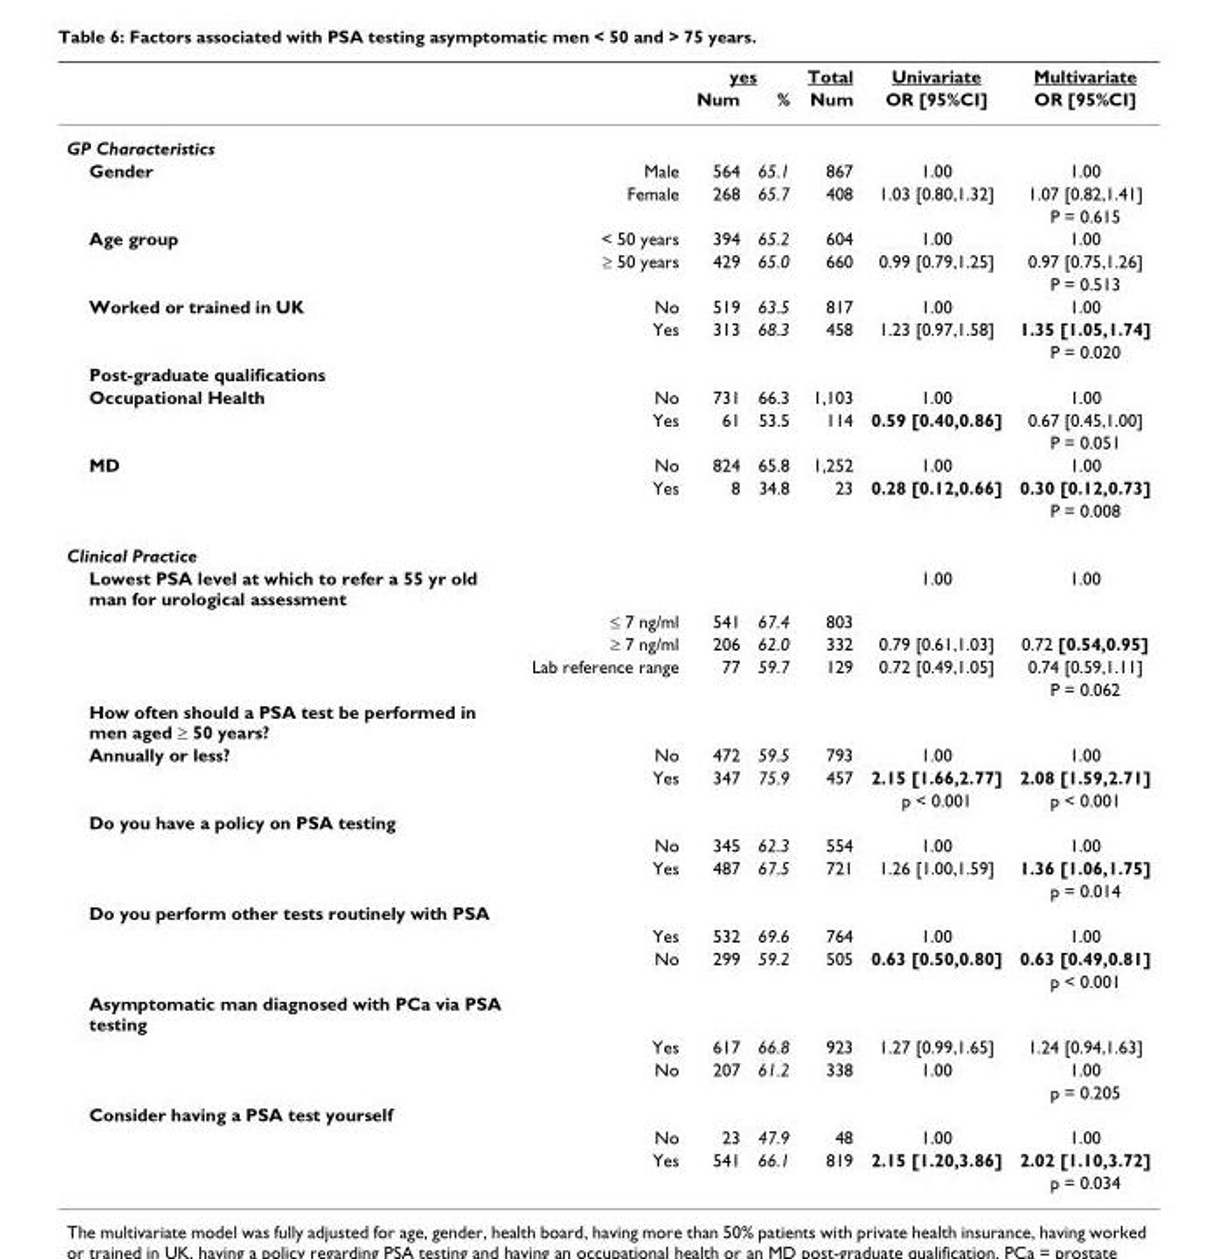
<table><thead><tr><td rowspan="2"></td><td rowspan="2"></td><td colspan="2">yes</td><td rowspan="2">Total Num</td><td rowspan="2">Univariate OR [95%CI]</td><td rowspan="2">Multivariate OR [95%CI]</td></tr><tr><td>Num</td><td>%</td></tr></thead><tbody><tr><td colspan="7">GP Characteristics</td></tr><tr><td rowspan="3">Gender</td><td>Male</td><td>564</td><td>65.1</td><td>867</td><td>1.00</td><td>1.00</td></tr><tr><td>Female</td><td>268</td><td>65.7</td><td>408</td><td>1.03 [0.80,1.32]</td><td>1.07 [0.82,1.41]</td></tr><tr><td></td><td></td><td></td><td></td><td></td><td>P = 0.615</td></tr><tr><td rowspan="3">Age group</td><td>&lt; 50 years</td><td>394</td><td>65.2</td><td>604</td><td>1.00</td><td>1.00</td></tr><tr><td>≥ 50 years</td><td>429</td><td>65.0</td><td>660</td><td>0.99 [0.79,1.25]</td><td>0.97 [0.75,1.26]</td></tr><tr><td></td><td></td><td></td><td></td><td></td><td>P = 0.513</td></tr><tr><td rowspan="3">Worked or trained in UK</td><td>No</td><td>519</td><td>63.5</td><td>817</td><td>1.00</td><td>1.00</td></tr><tr><td>Yes</td><td>313</td><td>68.3</td><td>458</td><td>1.23 [0.97,1.58]</td><td>1.35 [1.05,1.74]</td></tr><tr><td></td><td></td><td></td><td></td><td></td><td>P = 0.020</td></tr><tr><td colspan="7">Post-graduate qualifications</td></tr><tr><td rowspan="3">Occupational Health</td><td>No</td><td>731</td><td>66.3</td><td>1,103</td><td>1.00</td><td>1.00</td></tr><tr><td>Yes</td><td>61</td><td>53.5</td><td>114</td><td>0.59 [0.40,0.86]</td><td>0.67 [0.45,1.00]</td></tr><tr><td></td><td></td><td></td><td></td><td></td><td>P = 0.051</td></tr><tr><td rowspan="3">MD</td><td>No</td><td>824</td><td>65.8</td><td>1,252</td><td>1.00</td><td>1.00</td></tr><tr><td>Yes</td><td>8</td><td>34.8</td><td>23</td><td>0.28 [0.12,0.66]</td><td>0.30 [0.12,0.73]</td></tr><tr><td></td><td></td><td></td><td></td><td></td><td>P = 0.008</td></tr><tr><td colspan="7">Clinical Practice</td></tr><tr><td rowspan="5">Lowest PSA level at which to refer a 55 yr old man for urological assessment</td><td></td><td></td><td></td><td></td><td>1.00</td><td>1.00</td></tr><tr><td>≤ 7 ng/ml</td><td>541</td><td>67.4</td><td>803</td><td></td><td></td></tr><tr><td>≥ 7 ng/ml</td><td>206</td><td>62.0</td><td>332</td><td>0.79 [0.61,1.03]</td><td>0.72 [0.54,0.95]</td></tr><tr><td>Lab reference range</td><td>77</td><td>59.7</td><td>129</td><td>0.72 [0.49,1.05]</td><td>0.74 [0.59,1.11]</td></tr><tr><td></td><td></td><td></td><td></td><td></td><td>P = 0.062</td></tr><tr><td colspan="7">How often should a PSA test be performed in men aged ≥ 50 years?</td></tr><tr><td rowspan="3">Annually or less?</td><td>No</td><td>472</td><td>59.5</td><td>793</td><td>1.00</td><td>1.00</td></tr><tr><td>Yes</td><td>347</td><td>75.9</td><td>457</td><td>2.15 [1.66,2.77]</td><td>2.08 [1.59,2.71]</td></tr><tr><td></td><td></td><td></td><td></td><td>p &lt; 0.001</td><td>p &lt; 0.001</td></tr><tr><td colspan="7">Do you have a policy on PSA testing</td></tr><tr><td></td><td>No</td><td>345</td><td>62.3</td><td>554</td><td>1.00</td><td>1.00</td></tr><tr><td></td><td>Yes</td><td>487</td><td>67.5</td><td>721</td><td>1.26 [1.00,1.59]</td><td>1.36 [1.06,1.75]</td></tr><tr><td></td><td></td><td></td><td></td><td></td><td></td><td>p = 0.014</td></tr><tr><td colspan="7">Do you perform other tests routinely with PSA</td></tr><tr><td></td><td>Yes</td><td>532</td><td>69.6</td><td>764</td><td>1.00</td><td>1.00</td></tr><tr><td></td><td>No</td><td>299</td><td>59.2</td><td>505</td><td>0.63 [0.50,0.80]</td><td>0.63 [0.49,0.81]</td></tr><tr><td></td><td></td><td></td><td></td><td></td><td></td><td>p &lt; 0.001</td></tr><tr><td colspan="7">Asymptomatic man diagnosed with PCa via PSA testing</td></tr><tr><td></td><td>Yes</td><td>617</td><td>66.8</td><td>923</td><td>1.27 [0.99,1.65]</td><td>1.24 [0.94,1.63]</td></tr><tr><td></td><td>No</td><td>207</td><td>61.2</td><td>338</td><td>1.00</td><td>1.00</td></tr><tr><td></td><td></td><td></td><td></td><td></td><td></td><td>p = 0.205</td></tr><tr><td colspan="7">Consider having a PSA test yourself</td></tr><tr><td></td><td>No</td><td>23</td><td>47.9</td><td>48</td><td>1.00</td><td>1.00</td></tr><tr><td></td><td>Yes</td><td>541</td><td>66.1</td><td>819</td><td>2.15 [1.20,3.86]</td><td>2.02 [1.10,3.72]</td></tr><tr><td></td><td></td><td></td><td></td><td></td><td></td><td>p = 0.034</td></tr></tbody></table>